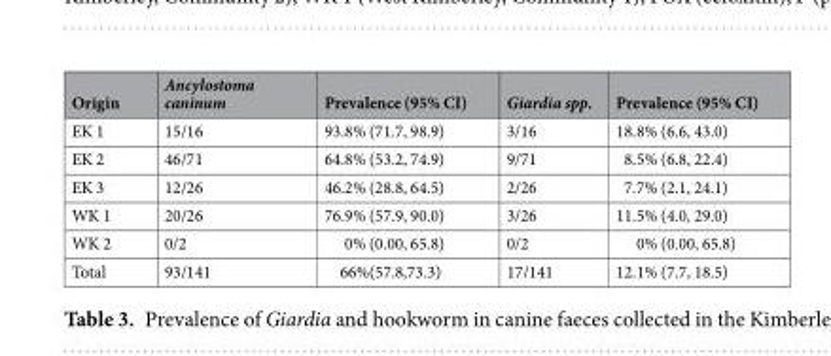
<table><thead><tr><td>Origin</td><td>Ancylostoma caninum</td><td>Prevalence (95% CI)</td><td>Giardia spp.</td><td>Prevalence (95% CI)</td></tr></thead><tbody><tr><td>EK 1</td><td>15/16</td><td>93.8% (71.7, 98.9)</td><td>3/16</td><td>18.8% (6.6, 43.0)</td></tr><tr><td>EK 2</td><td>46/71</td><td>64.8% (53.2, 74.9)</td><td>9/71</td><td>8.5% (6.8, 22.4)</td></tr><tr><td>EK 3</td><td>12/26</td><td>46.2% (28.8, 64.5)</td><td>2/26</td><td>7.7% (2.1, 24.1)</td></tr><tr><td>WK 1</td><td>20/26</td><td>76.9% (57.9, 90.0)</td><td>3/26</td><td>11.5% (4.0, 29.0)</td></tr><tr><td>WK 2</td><td>0/2</td><td>0% (0.00, 65.8)</td><td>0/2</td><td>0% (0.00, 65.8)</td></tr><tr><td>Total</td><td>93/141</td><td>66%(57.8,73.3)</td><td>17/141</td><td>12.1% (7.7, 18.5)</td></tr></tbody></table>